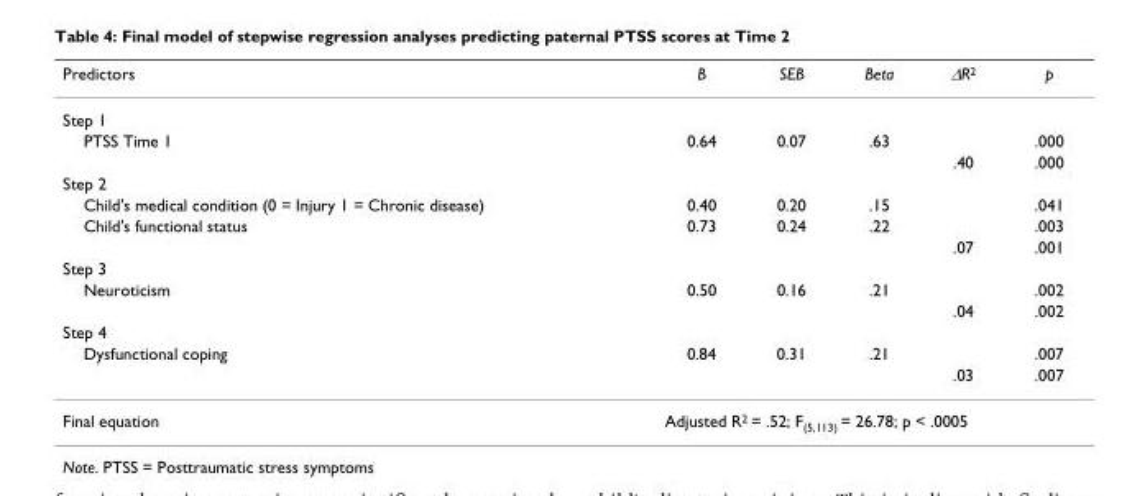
<table><thead><tr><td>Predictors</td><td>B</td><td>SEB</td><td>Beta</td><td>∆R2</td><td>p</td></tr></thead><tbody><tr><td colspan="6">Step 1</td></tr><tr><td rowspan="2">PTSS Time 1</td><td>0.64</td><td>0.07</td><td>.63</td><td></td><td>.000</td></tr><tr><td></td><td></td><td></td><td>.40</td><td>.000</td></tr><tr><td colspan="6">Step 2</td></tr><tr><td>Child&#x27;s medical condition (0 = Injury 1 = Chronic disease)</td><td>0.40</td><td>0.20</td><td>.15</td><td></td><td>.041</td></tr><tr><td rowspan="2">Child&#x27;s functional status</td><td>0.73</td><td>0.24</td><td>.22</td><td></td><td>.003</td></tr><tr><td></td><td></td><td></td><td>.07</td><td>.001</td></tr><tr><td colspan="6">Step 3</td></tr><tr><td rowspan="2">Neuroticism</td><td>0.50</td><td>0.16</td><td>.21</td><td></td><td>.002</td></tr><tr><td></td><td></td><td></td><td>.04</td><td>.002</td></tr><tr><td colspan="6">Step 4</td></tr><tr><td rowspan="2">Dysfunctional coping</td><td>0.84</td><td>0.31</td><td>.21</td><td></td><td>.007</td></tr><tr><td></td><td></td><td></td><td>.03</td><td>.007</td></tr><tr><td>Final equation</td><td colspan="5">Adjusted R<sup>2</sup> = .52; F<sub>(5,113)</sub> = 26.78; p &lt; .0005</td></tr></tbody></table>